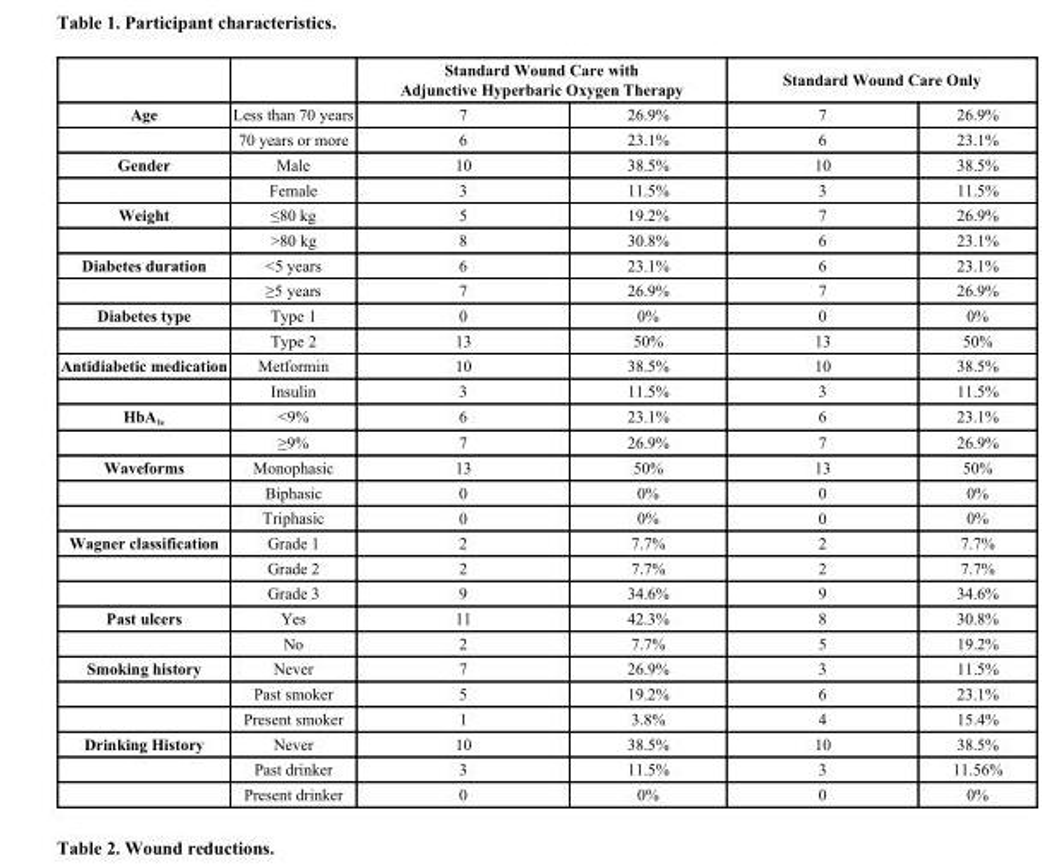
<table><thead><tr><td rowspan="2">Age</td><td rowspan="2">Less than 70 years</td><td colspan="2">Standard Wound Care with Adjunctive Hyperbaric Oxygen Therapy</td><td colspan="2">Standard Wound Care Only</td></tr><tr><td>7</td><td>26.9%</td><td>7</td><td>26.9%</td></tr></thead><tbody><tr><td></td><td>70 years or more</td><td>6</td><td>23.1%</td><td>6</td><td>23.1%</td></tr><tr><td rowspan="2">Gender</td><td>Male</td><td>10</td><td>38.5%</td><td>10</td><td>38.5%</td></tr><tr><td>Female</td><td>3</td><td>11.5%</td><td>3</td><td>11.5%</td></tr><tr><td rowspan="2">Weight</td><td>≤80 kg</td><td>5</td><td>19.2%</td><td>7</td><td>26.9%</td></tr><tr><td>&gt;80 kg</td><td>8</td><td>30.8%</td><td>6</td><td>23.1%</td></tr><tr><td rowspan="2">Diabetes duration</td><td>&lt;5 years</td><td>6</td><td>23.1%</td><td>6</td><td>23.1%</td></tr><tr><td>≥5 years</td><td>7</td><td>26.9%</td><td>7</td><td>26.9%</td></tr><tr><td rowspan="2">Diabetes type</td><td>Type 1</td><td>0</td><td>0%</td><td>0</td><td>0%</td></tr><tr><td>Type 2</td><td>13</td><td>50%</td><td>13</td><td>50%</td></tr><tr><td rowspan="2">Antidiabetic medication</td><td>Metformin</td><td>10</td><td>38.5%</td><td>10</td><td>38.5%</td></tr><tr><td>Insulin</td><td>3</td><td>11.5%</td><td>3</td><td>11.5%</td></tr><tr><td rowspan="2">HbA<sub>1c</sub></td><td>&lt;9%</td><td>6</td><td>23.1%</td><td>6</td><td>23.1%</td></tr><tr><td>≥9%</td><td>7</td><td>26.9%</td><td>7</td><td>26.9%</td></tr><tr><td rowspan="3">Waveforms</td><td>Monophasic</td><td>13</td><td>50%</td><td>13</td><td>50%</td></tr><tr><td>Biphasic</td><td>0</td><td>0%</td><td>0</td><td>0%</td></tr><tr><td>Triphasic</td><td>0</td><td>0%</td><td>0</td><td>0%</td></tr><tr><td rowspan="3">Wagner classification</td><td>Grade 1</td><td>2</td><td>7.7%</td><td>2</td><td>7.7%</td></tr><tr><td>Grade 2</td><td>2</td><td>7.7%</td><td>2</td><td>7.7%</td></tr><tr><td>Grade 3</td><td>9</td><td>34.6%</td><td>9</td><td>34.6%</td></tr><tr><td rowspan="2">Past ulcers</td><td>Yes</td><td>11</td><td>42.3%</td><td>8</td><td>30.8%</td></tr><tr><td>No</td><td>2</td><td>7.7%</td><td>5</td><td>19.2%</td></tr><tr><td rowspan="3">Smoking history</td><td>Never</td><td>7</td><td>26.9%</td><td>3</td><td>11.5%</td></tr><tr><td>Past smoker</td><td>5</td><td>19.2%</td><td>6</td><td>23.1%</td></tr><tr><td>Present smoker</td><td>1</td><td>3.8%</td><td>4</td><td>15.4%</td></tr><tr><td rowspan="3">Drinking History</td><td>Never</td><td>10</td><td>38.5%</td><td>10</td><td>38.5%</td></tr><tr><td>Past drinker</td><td>3</td><td>11.5%</td><td>3</td><td>11.56%</td></tr><tr><td>Present drinker</td><td>0</td><td>0%</td><td>0</td><td>0%</td></tr></tbody></table>